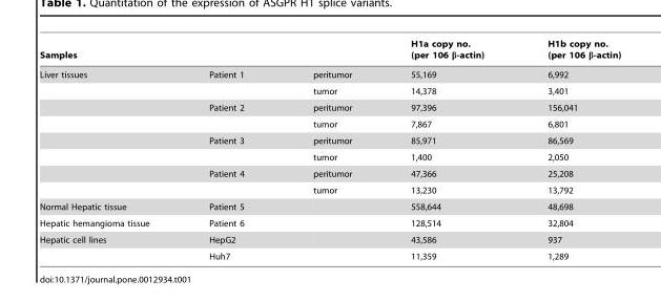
<table><thead><tr><td colspan="3">Samples</td><td rowspan="2">H1a copy no. (per 106 β-actin) 55,169</td><td rowspan="2">H1b copy no. (per 106 β-actin) 6,992</td></tr><tr><td>Liver tissues</td><td>Patient 1</td><td>peritumor</td></tr></thead><tbody><tr><td></td><td></td><td>tumor</td><td>14,378</td><td>3,401</td></tr><tr><td></td><td>Patient 2</td><td>peritumor</td><td>97,396</td><td>156,041</td></tr><tr><td></td><td></td><td>tumor</td><td>7,867</td><td>6,801</td></tr><tr><td></td><td>Patient 3</td><td>peritumor</td><td>85,971</td><td>86,569</td></tr><tr><td></td><td></td><td>tumor</td><td>1,400</td><td>2,050</td></tr><tr><td></td><td>Patient 4</td><td>peritumor</td><td>47,366</td><td>25,208</td></tr><tr><td></td><td></td><td>tumor</td><td>13,230</td><td>13,792</td></tr><tr><td>Normal Hepatic tissue</td><td>Patient 5</td><td></td><td>558,644</td><td>48,698</td></tr><tr><td>Hepatic hemangioma tissue</td><td>Patient 6</td><td></td><td>128,514</td><td>32,804</td></tr><tr><td rowspan="2">Hepatic cell lines</td><td>HepG2</td><td></td><td>43,586</td><td>937</td></tr><tr><td>Huh7</td><td></td><td>11,359</td><td>1,289</td></tr></tbody></table>